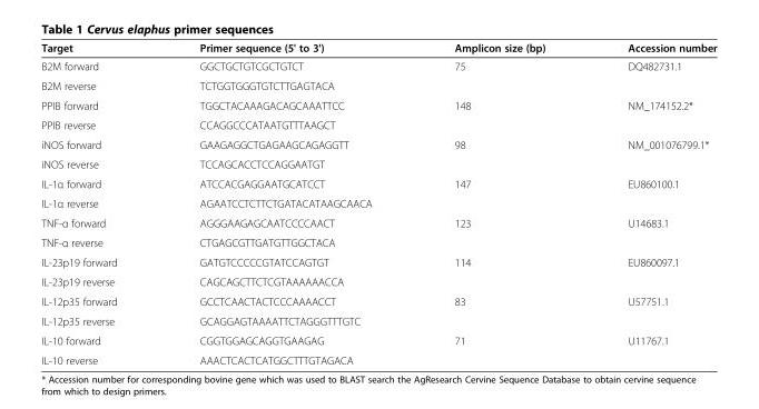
<table><thead><tr><td>Target</td><td>Primer sequence (5&#x27; to 3&#x27;)</td><td>Amplicon size (bp)</td><td>Accession number</td></tr></thead><tbody><tr><td>Β2M forward</td><td>GGCTGCTGTCGCTGTCT</td><td rowspan="2">75</td><td rowspan="2">DQ482731.1</td></tr><tr><td>Β2M reverse</td><td>TCTGGTGGGTGTCTTGAGTACA</td></tr><tr><td>PPIB forward</td><td>TGGCTACAAAGACAGCAAATTCC</td><td rowspan="2">148</td><td rowspan="2">NM_174152.2*</td></tr><tr><td>PPIB reverse</td><td>CCAGGCCCATAATGTTTAAGCT</td></tr><tr><td>iNOS forward</td><td>GAAGAGGCTGAGAAGCAGAGGTT</td><td rowspan="2">98</td><td rowspan="2">NM_001076799.1*</td></tr><tr><td>iNOS reverse</td><td>TCCAGCACCTCCAGGAATGT</td></tr><tr><td>IL-1α forward</td><td>ATCCACGAGGAATGCATCCT</td><td rowspan="2">147</td><td rowspan="2">EU860100.1</td></tr><tr><td>IL-1α reverse</td><td>AGAATCCTCTTCTGATACATAAGCAACA</td></tr><tr><td>TNF-α forward</td><td>AGGGAAGAGCAATCCCCAACT</td><td rowspan="2">123</td><td rowspan="2">U14683.1</td></tr><tr><td>TNF-α reverse</td><td>CTGAGCGTTGATGTTGGCTACA</td></tr><tr><td>IL-23p19 forward</td><td>GATGTCCCCCGTATCCAGTGT</td><td rowspan="2">114</td><td rowspan="2">EU860097.1</td></tr><tr><td>IL-23p19 reverse</td><td>CAGCAGCTTCTCGTAAAAAACCA</td></tr><tr><td>IL-12p35 forward</td><td>GCCTCAACTACTCCCAAAACCT</td><td rowspan="2">83</td><td rowspan="2">U57751.1</td></tr><tr><td>IL-12p35 reverse</td><td>GCAGGAGTAAAATTCTAGGGTTTGTC</td></tr><tr><td>IL-10 forward</td><td>CGGTGGAGCAGGTGAAGAG</td><td>71</td><td>U11767.1</td></tr><tr><td>IL-10 reverse</td><td>AAACTCACTCATGGCTTTGTAGACA</td><td></td><td></td></tr></tbody></table>